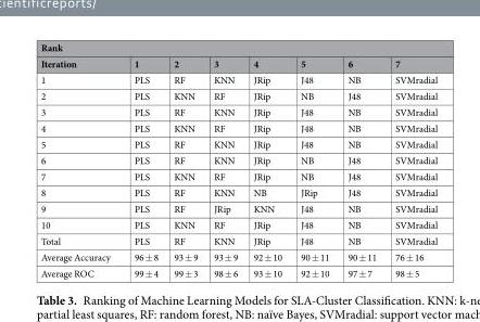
<table><thead><tr><td colspan="8">Rank</td></tr><tr><td>Iteration</td><td>1</td><td>2</td><td>3</td><td>4</td><td>5</td><td>6</td><td>7</td></tr></thead><tbody><tr><td>1</td><td>PLS</td><td>RF</td><td>KNN</td><td>JRip</td><td>J48</td><td>NB</td><td>SVMradial</td></tr><tr><td>2</td><td>PLS</td><td>KNN</td><td>RF</td><td>JRip</td><td>NB</td><td>J48</td><td>SVMradial</td></tr><tr><td>3</td><td>PLS</td><td>RF</td><td>KNN</td><td>JRip</td><td>J48</td><td>NB</td><td>SVMradial</td></tr><tr><td>4</td><td>PLS</td><td>KNN</td><td>RF</td><td>JRip</td><td>J48</td><td>NB</td><td>SVMradial</td></tr><tr><td>5</td><td>PLS</td><td>RF</td><td>KNN</td><td>JRip</td><td>J48</td><td>NB</td><td>SVMradial</td></tr><tr><td>6</td><td>PLS</td><td>RF</td><td>KNN</td><td>JRip</td><td>NB</td><td>J48</td><td>SVMradial</td></tr><tr><td>7</td><td>PLS</td><td>KNN</td><td>RF</td><td>JRip</td><td>NB</td><td>J48</td><td>SVMradial</td></tr><tr><td>8</td><td>PLS</td><td>RF</td><td>KNN</td><td>NB</td><td>JRip</td><td>J48</td><td>SVMradial</td></tr><tr><td>9</td><td>PLS</td><td>RF</td><td>JRip</td><td>KNN</td><td>J48</td><td>NB</td><td>SVMradial</td></tr><tr><td>10</td><td>PLS</td><td>KNN</td><td>RF</td><td>JRip</td><td>J48</td><td>NB</td><td>SVMradial</td></tr><tr><td>Total</td><td>PLS</td><td>RF</td><td>KNN</td><td>JRip</td><td>J48</td><td>NB</td><td>SVMradial</td></tr><tr><td>Average Accuracy</td><td>96 ± 8</td><td>93 ± 9</td><td>93 ± 9</td><td>92 ± 10</td><td>90 ± 11</td><td>90 ± 11</td><td>76 ± 16</td></tr><tr><td>Average ROC</td><td>99 ± 4</td><td>99 ± 3</td><td>98 ± 6</td><td>93 ± 10</td><td>92 ± 10</td><td>97 ± 7</td><td>98 ± 5</td></tr></tbody></table>